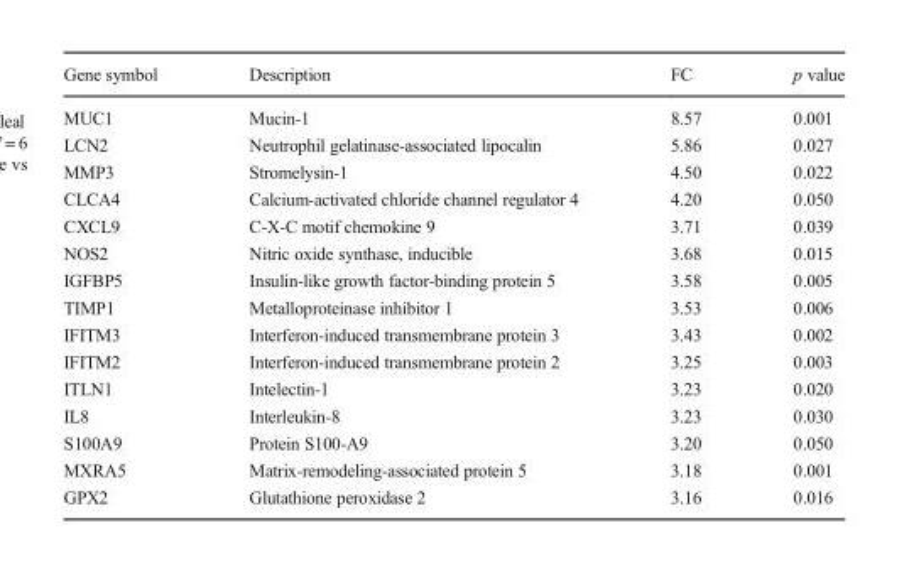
<table><thead><tr><td>Gene symbol</td><td>Description</td><td>FC</td><td>p value</td></tr></thead><tbody><tr><td>MUC1</td><td>Mucin-1</td><td>8.57</td><td>0.001</td></tr><tr><td>LCN2</td><td>Neutrophil gelatinase-associated lipocalin</td><td>5.86</td><td>0.027</td></tr><tr><td>MMP3</td><td>Stromelysin-1</td><td>4.50</td><td>0.022</td></tr><tr><td>CLCA4</td><td>Calcium-activated chloride channel regulator 4</td><td>4.20</td><td>0.050</td></tr><tr><td>CXCL9</td><td>C-X-C motif chemokine 9</td><td>3.71</td><td>0.039</td></tr><tr><td>NOS2</td><td>Nitric oxide synthase, inducible</td><td>3.68</td><td>0.015</td></tr><tr><td>IGFBP5</td><td>Insulin-like growth factor-binding protein 5</td><td>3.58</td><td>0.005</td></tr><tr><td>TIMP1</td><td>Metalloproteinase inhibitor 1</td><td>3.53</td><td>0.006</td></tr><tr><td>IFITM3</td><td>Interferon-induced transmembrane protein 3</td><td>3.43</td><td>0.002</td></tr><tr><td>IFITM2</td><td>Interferon-induced transmembrane protein 2</td><td>3.25</td><td>0.003</td></tr><tr><td>ITLN1</td><td>Intelectin-1</td><td>3.23</td><td>0.020</td></tr><tr><td>IL8</td><td>Interleukin-8</td><td>3.23</td><td>0.030</td></tr><tr><td>S100A9</td><td>Protein S100-A9</td><td>3.20</td><td>0.050</td></tr><tr><td>MXRA5</td><td>Matrix-remodeling-associated protein 5</td><td>3.18</td><td>0.001</td></tr><tr><td>GPX2</td><td>Glutathione peroxidase 2</td><td>3.16</td><td>0.016</td></tr></tbody></table>